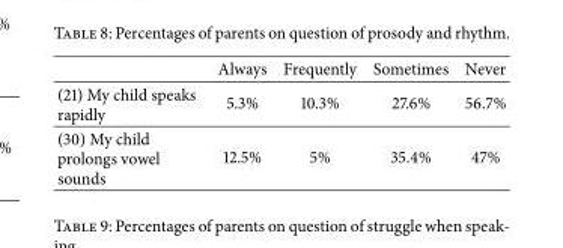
<table><thead><tr><td></td><td>Always</td><td>Frequently</td><td>Sometimes</td><td>Never</td></tr></thead><tbody><tr><td>(21) My child speaks rapidly</td><td>5.3%</td><td>10.3%</td><td>27.6%</td><td>56.7%</td></tr><tr><td>(30) My child prolongs vowel sounds</td><td>12.5%</td><td>5%</td><td>35.4%</td><td>47%</td></tr></tbody></table>